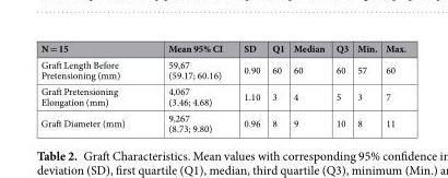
<table><thead><tr><td>N = 15</td><td>Mean 95% CI</td><td>SD</td><td>Q1</td><td>Median</td><td>Q3</td><td>Min.</td><td>Max.</td></tr></thead><tbody><tr><td>Graft Length Before Pretensioning (mm)</td><td>59,67 (59.17; 60.16)</td><td>0.90</td><td>60</td><td>60</td><td>60</td><td>57</td><td>60</td></tr><tr><td>Graft Pretensioning Elongation (mm)</td><td>4,067 (3.46; 4.68)</td><td>1.10</td><td>3</td><td>4</td><td>5</td><td>3</td><td>7</td></tr><tr><td>Graft Diameter (mm)</td><td>9,267 (8.73; 9.80)</td><td>0.96</td><td>8</td><td>9</td><td>10</td><td>8</td><td>11</td></tr></tbody></table>